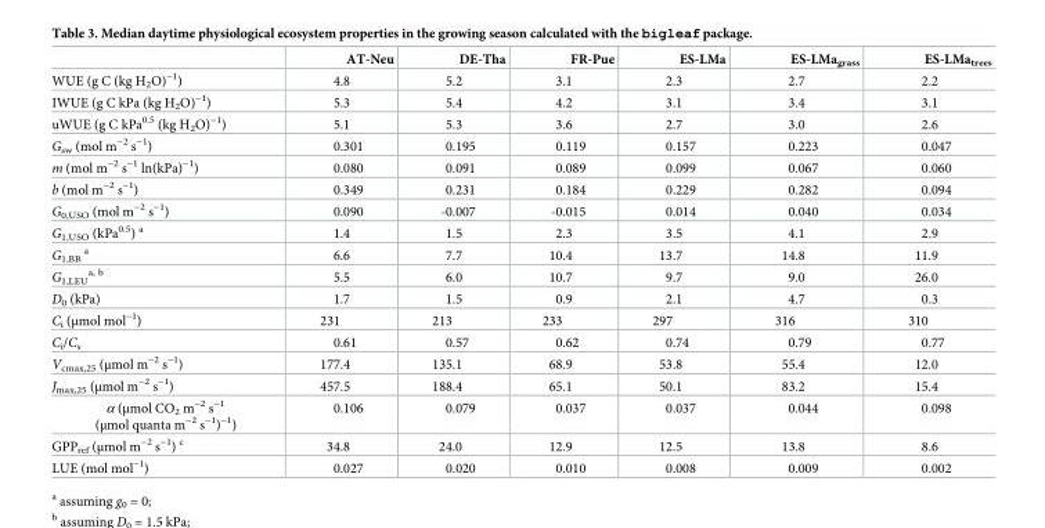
<table><thead><tr><td></td><td>AT-Neu</td><td>DE-Tha</td><td>FR-Pue</td><td>ES-LMa</td><td>ES-LMa<sub>grass</sub></td><td>ES-LMa<sub>trees</sub></td></tr></thead><tbody><tr><td>WUE (g C (kg H<sub>2</sub>O)<sup>−1</sup>)</td><td>4.8</td><td>5.2</td><td>3.1</td><td>2.3</td><td>2.7</td><td>2.2</td></tr><tr><td>IWUE (g C kPa (kg H<sub>2</sub>O)<sup>−1</sup>)</td><td>5.3</td><td>5.4</td><td>4.2</td><td>3.1</td><td>3.4</td><td>3.1</td></tr><tr><td>uWUE (g C kPa<sup>0.5</sup> (kg H<sub>2</sub>O)<sup>−1</sup>)</td><td>5.1</td><td>5.3</td><td>3.6</td><td>2.7</td><td>3.0</td><td>2.6</td></tr><tr><td>G<sub>sw</sub> (mol m<sup>−2</sup> s<sup>−1</sup>)</td><td>0.301</td><td>0.195</td><td>0.119</td><td>0.157</td><td>0.223</td><td>0.047</td></tr><tr><td>m (mol m<sup>−2</sup> s<sup>−1</sup> ln(kPa)<sup>−1</sup>)</td><td>0.080</td><td>0.091</td><td>0.089</td><td>0.099</td><td>0.067</td><td>0.060</td></tr><tr><td>b (mol m<sup>−2</sup> s<sup>−1</sup>)</td><td>0.349</td><td>0.231</td><td>0.184</td><td>0.229</td><td>0.282</td><td>0.094</td></tr><tr><td>G<sub>0,USO</sub> (mol m<sup>−2</sup> s<sup>−1</sup>)</td><td>0.090</td><td>-0.007</td><td>-0.015</td><td>0.014</td><td>0.040</td><td>0.034</td></tr><tr><td>G<sub>1,USO</sub> (kPa<sup>0.5</sup>) <sup>a</sup></td><td>1.4</td><td>1.5</td><td>2.3</td><td>3.5</td><td>4.1</td><td>2.9</td></tr><tr><td>G<sub>1,BB</sub> <sup>a</sup></td><td>6.6</td><td>7.7</td><td>10.4</td><td>13.7</td><td>14.8</td><td>11.9</td></tr><tr><td>G<sub>1,LEU</sub> <sup>a, b</sup></td><td>5.5</td><td>6.0</td><td>10.7</td><td>9.7</td><td>9.0</td><td>26.0</td></tr><tr><td>D<sub>0</sub> (kPa)</td><td>1.7</td><td>1.5</td><td>0.9</td><td>2.1</td><td>4.7</td><td>0.3</td></tr><tr><td>C<sub>i</sub> (μmol mol<sup>−1</sup>)</td><td>231</td><td>213</td><td>233</td><td>297</td><td>316</td><td>310</td></tr><tr><td>C<sub>i</sub>/C<sub>s</sub></td><td>0.61</td><td>0.57</td><td>0.62</td><td>0.74</td><td>0.79</td><td>0.77</td></tr><tr><td>V<sub>cmax,25</sub> (μmol m<sup>−2</sup> s<sup>−1</sup>)</td><td>177.4</td><td>135.1</td><td>68.9</td><td>53.8</td><td>55.4</td><td>12.0</td></tr><tr><td>J<sub>max,25</sub> (μmol m<sup>−2</sup> s<sup>−1</sup>)</td><td>457.5</td><td>188.4</td><td>65.1</td><td>50.1</td><td>83.2</td><td>15.4</td></tr><tr><td>α (μmol CO<sub>2</sub> m<sup>−2</sup> s<sup>−1</sup> (μmol quanta m<sup>−2</sup> s<sup>−1</sup>)<sup>−1</sup>)</td><td>0.106</td><td>0.079</td><td>0.037</td><td>0.037</td><td>0.044</td><td>0.098</td></tr><tr><td>GPP<sub>ref</sub> (μmol m<sup>−2</sup> s<sup>−1</sup>) <sup>c</sup></td><td>34.8</td><td>24.0</td><td>12.9</td><td>12.5</td><td>13.8</td><td>8.6</td></tr><tr><td>LUE (mol mol<sup>−1</sup>)</td><td>0.027</td><td>0.020</td><td>0.010</td><td>0.008</td><td>0.009</td><td>0.002</td></tr></tbody></table>